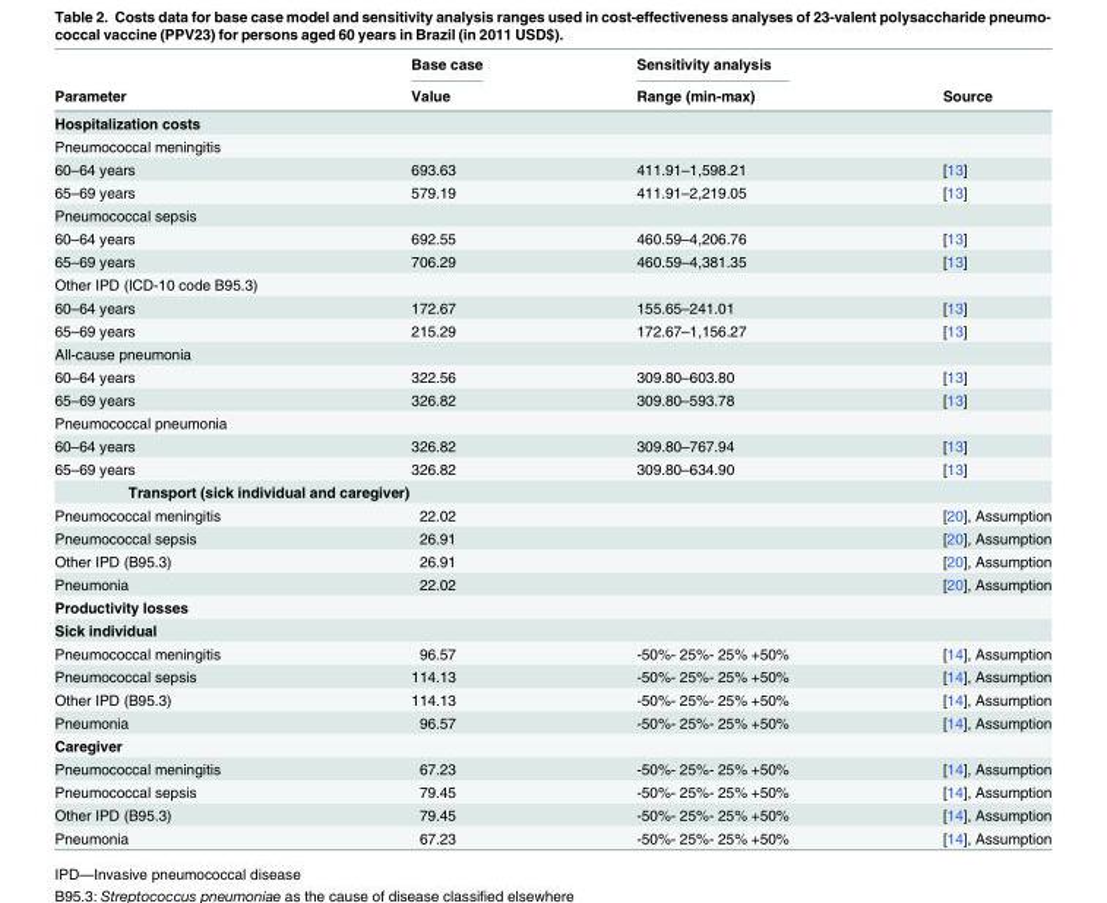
<table><thead><tr><td rowspan="2">Parameter</td><td rowspan="2">Base case Value</td><td rowspan="2">Sensitivity analysis Range (min-max)</td><td rowspan="2">Source</td></tr><tr></tr></thead><tbody><tr><td colspan="4">Hospitalization costs</td></tr><tr><td colspan="4">Pneumococcal meningitis</td></tr><tr><td>60–64 years</td><td>693.63</td><td>411.91–1,598.21</td><td>[13]</td></tr><tr><td>65–69 years</td><td>579.19</td><td>411.91–2,219.05</td><td>[13]</td></tr><tr><td colspan="4">Pneumococcal sepsis</td></tr><tr><td>60–64 years</td><td>692.55</td><td>460.59–4,206.76</td><td>[13]</td></tr><tr><td>65–69 years</td><td>706.29</td><td>460.59–4,381.35</td><td>[13]</td></tr><tr><td colspan="4">Other IPD (ICD-10 code B95.3)</td></tr><tr><td>60–64 years</td><td>172.67</td><td>155.65–241.01</td><td>[13]</td></tr><tr><td>65–69 years</td><td>215.29</td><td>172.67–1,156.27</td><td>[13]</td></tr><tr><td colspan="4">All-cause pneumonia</td></tr><tr><td>60–64 years</td><td>322.56</td><td>309.80–603.80</td><td>[13]</td></tr><tr><td>65–69 years</td><td>326.82</td><td>309.80–593.78</td><td>[13]</td></tr><tr><td colspan="4">Pneumococcal pneumonia</td></tr><tr><td>60–64 years</td><td>326.82</td><td>309.80–767.94</td><td>[13]</td></tr><tr><td>65–69 years</td><td>326.82</td><td>309.80–634.90</td><td>[13]</td></tr><tr><td colspan="4">Transport (sick individual and caregiver)</td></tr><tr><td>Pneumococcal meningitis</td><td>22.02</td><td></td><td>[20], Assumption</td></tr><tr><td>Pneumococcal sepsis</td><td>26.91</td><td></td><td>[20], Assumption</td></tr><tr><td>Other IPD (B95.3)</td><td>26.91</td><td></td><td>[20], Assumption</td></tr><tr><td>Pneumonia</td><td>22.02</td><td></td><td>[20], Assumption</td></tr><tr><td colspan="4">Productivity losses</td></tr><tr><td colspan="4">Sick individual</td></tr><tr><td>Pneumococcal meningitis</td><td>96.57</td><td>-50%- 25%- 25% +50%</td><td>[14], Assumption</td></tr><tr><td>Pneumococcal sepsis</td><td>114.13</td><td>-50%- 25%- 25% +50%</td><td>[14], Assumption</td></tr><tr><td>Other IPD (B95.3)</td><td>114.13</td><td>-50%- 25%- 25% +50%</td><td>[14], Assumption</td></tr><tr><td>Pneumonia</td><td>96.57</td><td>-50%- 25%- 25% +50%</td><td>[14], Assumption</td></tr><tr><td colspan="4">Caregiver</td></tr><tr><td>Pneumococcal meningitis</td><td>67.23</td><td>-50%- 25%- 25% +50%</td><td>[14], Assumption</td></tr><tr><td>Pneumococcal sepsis</td><td>79.45</td><td>-50%- 25%- 25% +50%</td><td>[14], Assumption</td></tr><tr><td>Other IPD (B95.3)</td><td>79.45</td><td>-50%- 25%- 25% +50%</td><td>[14], Assumption</td></tr><tr><td>Pneumonia</td><td>67.23</td><td>-50%- 25%- 25% +50%</td><td>[14], Assumption</td></tr></tbody></table>